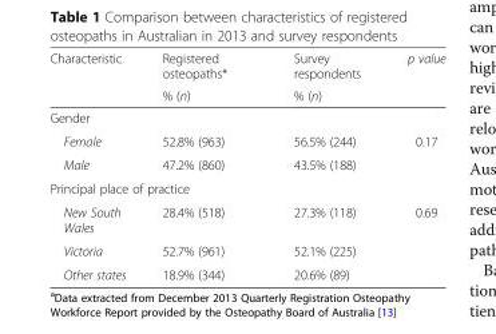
<table><thead><tr><td rowspan="2">Characteristic</td><td rowspan="2">Registered osteopaths* % (n)</td><td rowspan="2">Survey respondents % (n)</td><td rowspan="2">p value</td></tr><tr></tr></thead><tbody><tr><td colspan="4">Gender</td></tr><tr><td>Female</td><td>52.8% (963)</td><td>56.5% (244)</td><td rowspan="2">0.17</td></tr><tr><td>Male</td><td>47.2% (860)</td><td>43.5% (188)</td></tr><tr><td colspan="4">Principal place of practice</td></tr><tr><td>New South Wales</td><td>28.4% (518)</td><td>27.3% (118)</td><td rowspan="3">0.69</td></tr><tr><td>Victoria</td><td>52.7% (961)</td><td>52.1% (225)</td></tr><tr><td>Other states</td><td>18.9% (344)</td><td>20.6% (89)</td></tr></tbody></table>